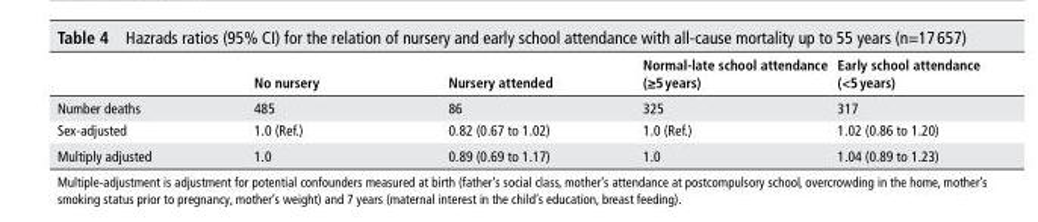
<table><thead><tr><td></td><td>no nursery</td><td>nursery attended</td><td>normal-late school attendance (≥5 years)</td><td>early school attendance (&lt;5 years)</td></tr></thead><tbody><tr><td>Number deaths</td><td>485</td><td>86</td><td>325</td><td>317</td></tr><tr><td>Sex-adjusted</td><td>1.0 (Ref.)</td><td>0.82 (0.67 to 1.02)</td><td>1.0 (Ref.)</td><td>1.02 (0.86 to 1.20)</td></tr><tr><td>Multiply adjusted</td><td>1.0</td><td>0.89 (0.69 to 1.17)</td><td>1.0</td><td>1.04 (0.89 to 1.23)</td></tr></tbody></table>